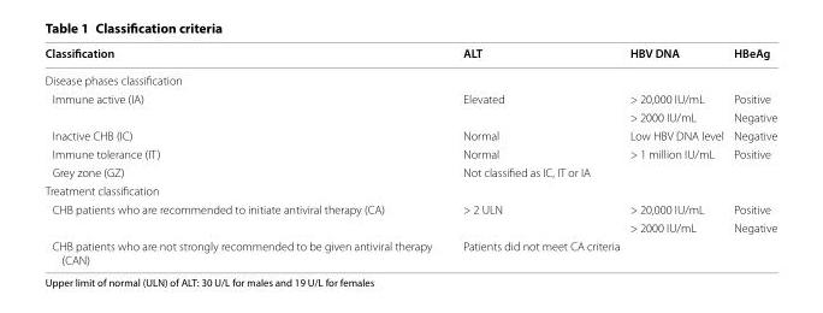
<table><thead><tr><td>Classification</td><td>ALT</td><td>HBV DNA</td><td>HBeAg</td></tr></thead><tbody><tr><td colspan="4">Disease phases classification</td></tr><tr><td rowspan="2">Immune active (IA)</td><td rowspan="2">Elevated</td><td>&gt; 20,000 IU/mL</td><td>Positive</td></tr><tr><td>&gt; 2000 IU/mL</td><td>Negative</td></tr><tr><td>Inactive CHB (IC)</td><td>Normal</td><td>Low HBV DNA level</td><td>Negative</td></tr><tr><td>Immune tolerance (IT)</td><td>Normal</td><td>&gt; 1 million IU/mL</td><td>Positive</td></tr><tr><td>Grey zone (GZ)</td><td colspan="3">Not classified as IC, IT or IA</td></tr><tr><td colspan="4">Treatment classification</td></tr><tr><td rowspan="2">CHB patients who are recommended to initiate antiviral therapy (CA)</td><td rowspan="2">&gt; 2 ULN</td><td>&gt; 20,000 IU/mL</td><td>Positive</td></tr><tr><td>&gt; 2000 IU/mL</td><td>Negative</td></tr><tr><td>CHB patients who are not strongly recommended to be given antiviral therapy (CAN)</td><td colspan="3">Patients did not meet CA criteria</td></tr></tbody></table>